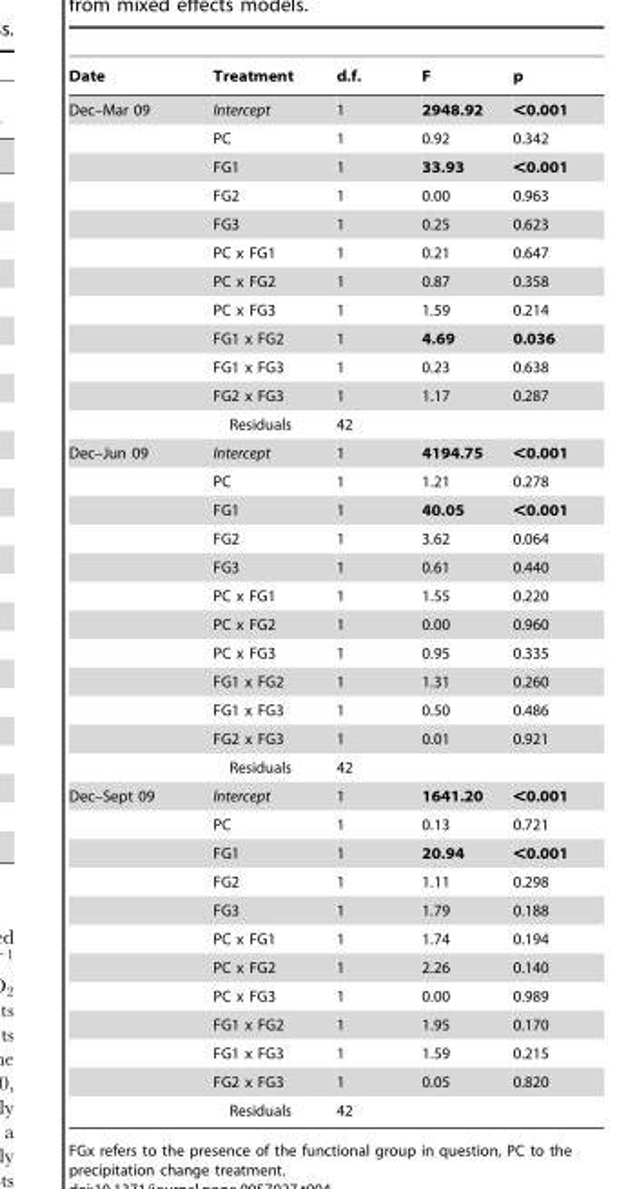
<table><thead><tr><td>Date</td><td>Treatment</td><td>d.f.</td><td>F</td><td>p</td></tr></thead><tbody><tr><td rowspan="12">Dec–Mar 09</td><td>Intercept</td><td>1</td><td>2948.92</td><td>&lt;0.001</td></tr><tr><td>PC</td><td>1</td><td>0.92</td><td>0.342</td></tr><tr><td>FG1</td><td>1</td><td>33.93</td><td>&lt;0.001</td></tr><tr><td>FG2</td><td>1</td><td>0.00</td><td>0.963</td></tr><tr><td>FG3</td><td>1</td><td>0.25</td><td>0.623</td></tr><tr><td>PC x FG1</td><td>1</td><td>0.21</td><td>0.647</td></tr><tr><td>PC x FG2</td><td>1</td><td>0.87</td><td>0.358</td></tr><tr><td>PC x FG3</td><td>1</td><td>1.59</td><td>0.214</td></tr><tr><td>FG1 x FG2</td><td>1</td><td>4.69</td><td>0.036</td></tr><tr><td>FG1 x FG3</td><td>1</td><td>0.23</td><td>0.638</td></tr><tr><td>FG2 x FG3</td><td>1</td><td>1.17</td><td>0.287</td></tr><tr><td>Residuals</td><td>42</td><td></td><td></td></tr><tr><td rowspan="12">Dec–Jun 09</td><td>Intercept</td><td>1</td><td>4194.75</td><td>&lt;0.001</td></tr><tr><td>PC</td><td>1</td><td>1.21</td><td>0.278</td></tr><tr><td>FG1</td><td>1</td><td>40.05</td><td>&lt;0.001</td></tr><tr><td>FG2</td><td>1</td><td>3.62</td><td>0.064</td></tr><tr><td>FG3</td><td>1</td><td>0.61</td><td>0.440</td></tr><tr><td>PC x FG1</td><td>1</td><td>1.55</td><td>0.220</td></tr><tr><td>PC x FG2</td><td>1</td><td>0.00</td><td>0.960</td></tr><tr><td>PC x FG3</td><td>1</td><td>0.95</td><td>0.335</td></tr><tr><td>FG1 x FG2</td><td>1</td><td>1.31</td><td>0.260</td></tr><tr><td>FG1 x FG3</td><td>1</td><td>0.50</td><td>0.486</td></tr><tr><td>FG2 x FG3</td><td>1</td><td>0.01</td><td>0.921</td></tr><tr><td>Residuals</td><td>42</td><td></td><td></td></tr><tr><td rowspan="12">Dec–Sept 09</td><td>Intercept</td><td>1</td><td>1641.20</td><td>&lt;0.001</td></tr><tr><td>PC</td><td>1</td><td>0.13</td><td>0.721</td></tr><tr><td>FG1</td><td>1</td><td>20.94</td><td>&lt;0.001</td></tr><tr><td>FG2</td><td>1</td><td>1.11</td><td>0.298</td></tr><tr><td>FG3</td><td>1</td><td>1.79</td><td>0.188</td></tr><tr><td>PC x FG1</td><td>1</td><td>1.74</td><td>0.194</td></tr><tr><td>PC x FG2</td><td>1</td><td>2.26</td><td>0.140</td></tr><tr><td>PC x FG3</td><td>1</td><td>0.00</td><td>0.989</td></tr><tr><td>FG1 x FG2</td><td>1</td><td>1.95</td><td>0.170</td></tr><tr><td>FG1 x FG3</td><td>1</td><td>1.59</td><td>0.215</td></tr><tr><td>FG2 x FG3</td><td>1</td><td>0.05</td><td>0.820</td></tr><tr><td>Residuals</td><td>42</td><td></td><td></td></tr></tbody></table>